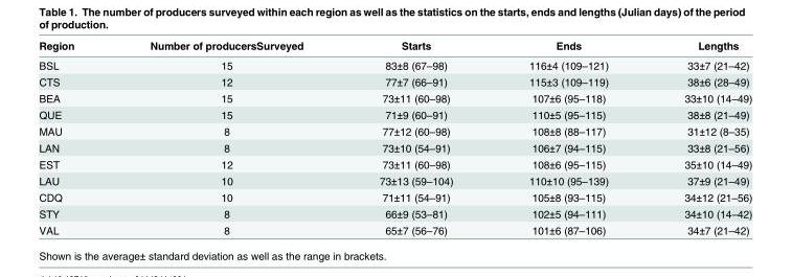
<table><thead><tr><td>Region</td><td>Number of producersSurveyed</td><td>Starts</td><td>Ends</td><td>Lengths</td></tr></thead><tbody><tr><td>BSL</td><td>15</td><td>83±8 (67–98)</td><td>116±4 (109–121)</td><td>33±7 (21–42)</td></tr><tr><td>CTS</td><td>12</td><td>77±7 (66–91)</td><td>115±3 (109–119)</td><td>38±6 (28–49)</td></tr><tr><td>BEA</td><td>15</td><td>73±11 (60–98)</td><td>107±6 (95–118)</td><td>33±10 (14–49)</td></tr><tr><td>QUE</td><td>15</td><td>71±9 (60–91)</td><td>110±5 (95–115)</td><td>38±8 (21–49)</td></tr><tr><td>MAU</td><td>8</td><td>77±12 (60–98)</td><td>108±8 (88–117)</td><td>31±12 (8–35)</td></tr><tr><td>LAN</td><td>8</td><td>73±10 (54–91)</td><td>106±7 (94–115)</td><td>33±8 (21–56)</td></tr><tr><td>EST</td><td>12</td><td>73±11 (60–98)</td><td>108±6 (95–115)</td><td>35±10 (14–49)</td></tr><tr><td>LAU</td><td>10</td><td>73±13 (59–104)</td><td>110±10 (95–139)</td><td>37±9 (21–49)</td></tr><tr><td>CDQ</td><td>10</td><td>71±11 (54–91)</td><td>105±8 (93–115)</td><td>34±12 (21–56)</td></tr><tr><td>STY</td><td>8</td><td>66±9 (53–81)</td><td>102±5 (94–111)</td><td>34±10 (14–42)</td></tr><tr><td>VAL</td><td>8</td><td>65±7 (56–76)</td><td>101±6 (87–106)</td><td>34±7 (21–42)</td></tr></tbody></table>